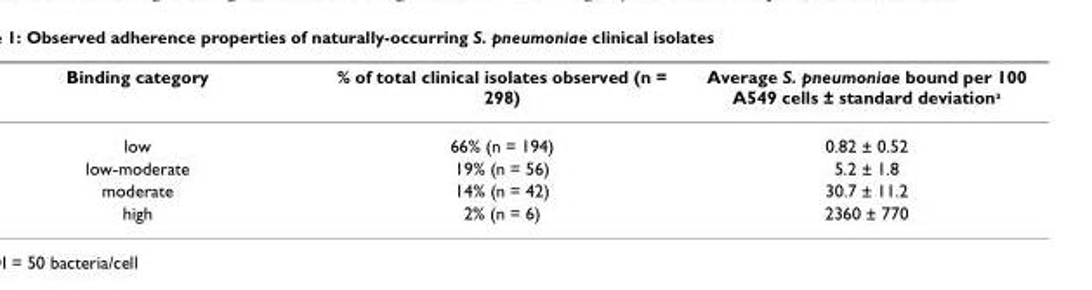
<table><thead><tr><td>Binding category</td><td>% of total clinical isolates observed (n = 298)</td><td>Average S. pneumoniae bound per 100 A549 cells ± standard deviation<sup>a</sup></td></tr></thead><tbody><tr><td>low</td><td>66% (n = 194)</td><td>0.82 ± 0.52</td></tr><tr><td>low-moderate</td><td>19% (n = 56)</td><td>5.2 ± 1.8</td></tr><tr><td>moderate</td><td>14% (n = 42)</td><td>30.7 ± 11.2</td></tr><tr><td>high</td><td>2% (n = 6)</td><td>2360 ± 770</td></tr></tbody></table>